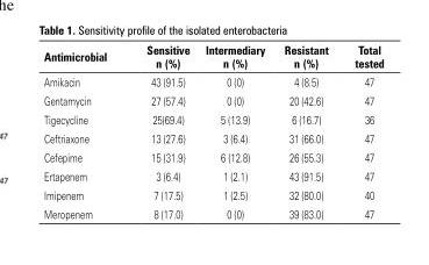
<table><thead><tr><td>Antimicrobial</td><td>Sensitive n (%)</td><td>Intermediary n (%)</td><td>Resistant n (%)</td><td>Total tested</td></tr></thead><tbody><tr><td>Amikacin</td><td>43 (91.5)</td><td>0 (0)</td><td>4 (8.5)</td><td>47</td></tr><tr><td>Gentamycin</td><td>27 (57.4)</td><td>0 (0)</td><td>20 (42.6)</td><td>47</td></tr><tr><td>Tigecycline</td><td>25(69.4)</td><td>5 (13.9)</td><td>6 (16.7)</td><td>36</td></tr><tr><td>Ceftriaxone</td><td>13 (27.6)</td><td>3 (6.4)</td><td>31 (66.0)</td><td>47</td></tr><tr><td>Cefepime</td><td>15 (31.9)</td><td>6 (12.8)</td><td>26 (55.3)</td><td>47</td></tr><tr><td>Ertapenem</td><td>3 (6.4)</td><td>1 (2.1)</td><td>43 (91.5)</td><td>47</td></tr><tr><td>Imipenem</td><td>7 (17.5)</td><td>1 (2.5)</td><td>32 (80.0)</td><td>40</td></tr><tr><td>Meropenem</td><td>8 (17.0)</td><td>0 (0)</td><td>39 (83.0)</td><td>47</td></tr></tbody></table>